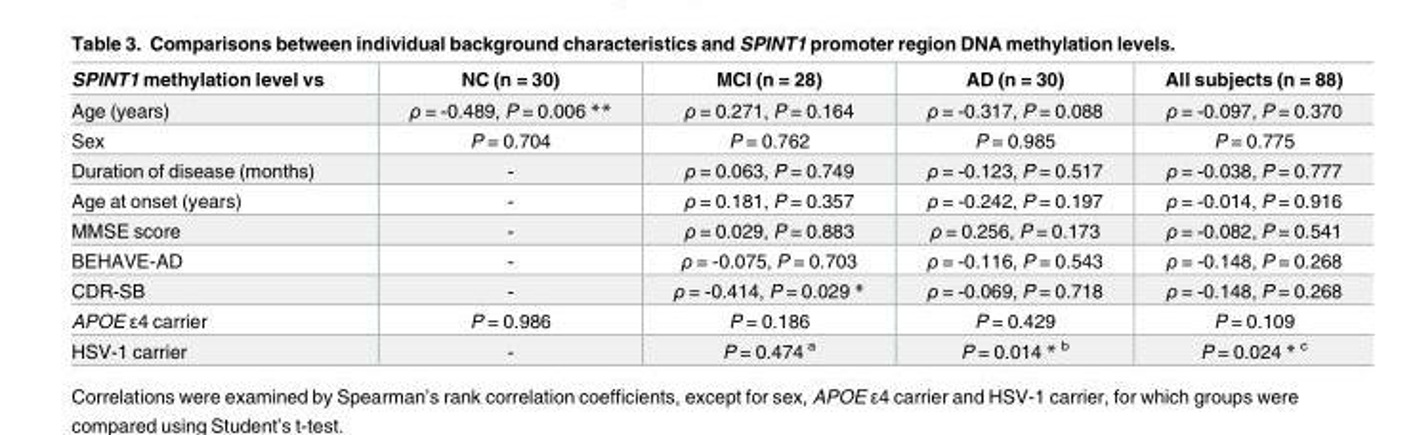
<table><thead><tr><td>SPINT1 methylation level vs</td><td>NC (n = 30)</td><td>MCI (n = 28)</td><td>AD (n = 30)</td><td>All subjects (n = 88)</td></tr></thead><tbody><tr><td>Age (years)</td><td>ρ = -0.489, P = 0.006 **</td><td>ρ = 0.271, P = 0.164</td><td>ρ = -0.317, P = 0.088</td><td>ρ = -0.097, P = 0.370</td></tr><tr><td>Sex</td><td>P = 0.704</td><td>P = 0.762</td><td>P = 0.985</td><td>P = 0.775</td></tr><tr><td>Duration of disease (months)</td><td>-</td><td>ρ = 0.063, P = 0.749</td><td>ρ = -0.123, P = 0.517</td><td>ρ = -0.038, P = 0.777</td></tr><tr><td>Age at onset (years)</td><td>-</td><td>ρ = 0.181, P = 0.357</td><td>ρ = -0.242, P = 0.197</td><td>ρ = -0.014, P = 0.916</td></tr><tr><td>MMSE score</td><td>-</td><td>ρ = 0.029, P = 0.883</td><td>ρ = 0.256, P = 0.173</td><td>ρ = -0.082, P = 0.541</td></tr><tr><td>BEHAVE-AD</td><td>-</td><td>ρ = -0.075, P = 0.703</td><td>ρ = -0.116, P = 0.543</td><td>ρ = -0.148, P = 0.268</td></tr><tr><td>CDR-SB</td><td>-</td><td>ρ = -0.414, P = 0.029 *</td><td>ρ = -0.069, P = 0.718</td><td>ρ = -0.148, P = 0.268</td></tr><tr><td>APOE ε4 carrier</td><td>P = 0.986</td><td>P = 0.186</td><td>P = 0.429</td><td>P = 0.109</td></tr><tr><td>HSV-1 carrier</td><td>-</td><td>P = 0.474 <sup>a</sup></td><td>P = 0.014 * <sup>b</sup></td><td>P = 0.024 * <sup>c</sup></td></tr></tbody></table>